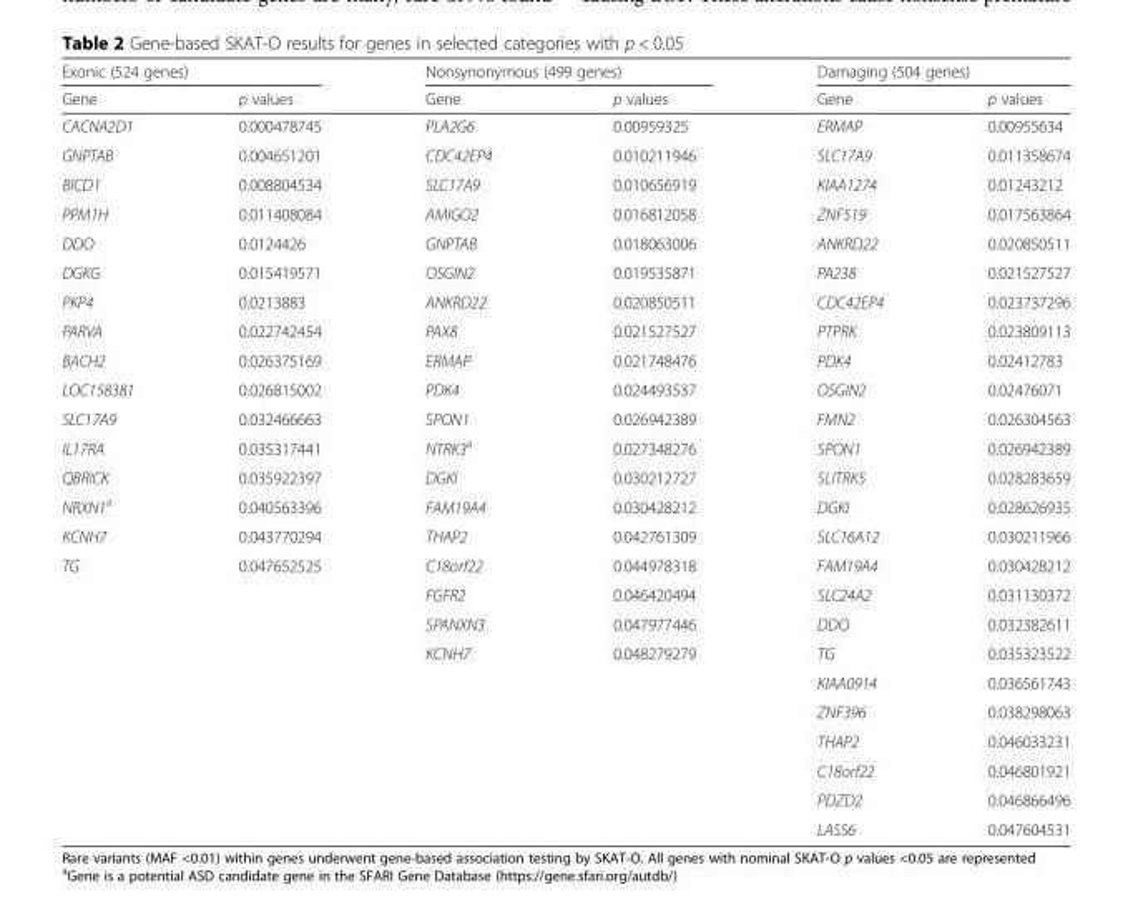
<table><thead><tr><td colspan="2">Exonic (524 genes)</td><td colspan="2">Nonsynonymous (499 genes)</td><td colspan="2">Damaging (504 genes)</td></tr><tr><td>Gene</td><td>p values</td><td>Gene</td><td>p values</td><td>Gene</td><td>p values</td></tr></thead><tbody><tr><td>CACNA2D1</td><td>0.000478745</td><td>PLA2G6</td><td>0.00959325</td><td>ERMAP</td><td>0.00955634</td></tr><tr><td>GNPTAB</td><td>0.004651201</td><td>CDC42EP4</td><td>0.010211946</td><td>SLC17A9</td><td>0.011358674</td></tr><tr><td>BICD1</td><td>0.008804534</td><td>SLC17A9</td><td>0.010656919</td><td>KIAA1274</td><td>0.01243212</td></tr><tr><td>PPM1H</td><td>0.011408084</td><td>AMIGO2</td><td>0.016812058</td><td>ZNF519</td><td>0.017563864</td></tr><tr><td>DDO</td><td>0.0124426</td><td>GNPTAB</td><td>0.018063006</td><td>ANKRD22</td><td>0.020850511</td></tr><tr><td>DGKG</td><td>0.015419571</td><td>OSGIN2</td><td>0.019535871</td><td>PA238</td><td>0.021527527</td></tr><tr><td>PKP4</td><td>0.0213883</td><td>ANKRD22</td><td>0.020850511</td><td>CDC42EP4</td><td>0.023737296</td></tr><tr><td>PARVA</td><td>0.022742454</td><td>PAX8</td><td>0.021527527</td><td>PTPRK</td><td>0.023809113</td></tr><tr><td>BACH2</td><td>0.026375169</td><td>ERMAP</td><td>0.021748476</td><td>PDK4</td><td>0.02412783</td></tr><tr><td>LOC158381</td><td>0.026815002</td><td>PDK4</td><td>0.024493537</td><td>OSGIN2</td><td>0.02476071</td></tr><tr><td>SLC17A9</td><td>0.032466663</td><td>SPON1</td><td>0.026942389</td><td>FMN2</td><td>0.026304563</td></tr><tr><td>IL17RA</td><td>0.035317441</td><td>NTRK3<sup>a</sup></td><td>0.027348276</td><td>SPON1</td><td>0.026942389</td></tr><tr><td>QBRICK</td><td>0.035922397</td><td>DGKI</td><td>0.030212727</td><td>SLITRK5</td><td>0.028283659</td></tr><tr><td>NRXN1<sup>a</sup></td><td>0.040563396</td><td>FAM19A4</td><td>0.030428212</td><td>DGKI</td><td>0.028626935</td></tr><tr><td>KCNH7</td><td>0.043770294</td><td>THAP2</td><td>0.042761309</td><td>SLC16A12</td><td>0.030211966</td></tr><tr><td rowspan="10">TG</td><td>0.047652525</td><td>C18orf22</td><td>0.044978318</td><td>FAM19A4</td><td>0.030428212</td></tr><tr><td></td><td>FGFR2</td><td>0.046420494</td><td>SLC24A2</td><td>0.031130372</td></tr><tr><td></td><td>SPANXN3</td><td>0.047977446</td><td>DDO</td><td>0.032382611</td></tr><tr><td></td><td>KCNH7</td><td>0.048279279</td><td>TG</td><td>0.035323522</td></tr><tr><td></td><td></td><td></td><td>KIAA0914</td><td>0.036561743</td></tr><tr><td></td><td></td><td></td><td>ZNF396</td><td>0.038298063</td></tr><tr><td></td><td></td><td></td><td>THAP2</td><td>0.046033231</td></tr><tr><td></td><td></td><td></td><td>C18orf22</td><td>0.046801921</td></tr><tr><td></td><td></td><td></td><td>PDZD2</td><td>0.046866496</td></tr><tr><td></td><td></td><td></td><td>LASS6</td><td>0.047604531</td></tr></tbody></table>